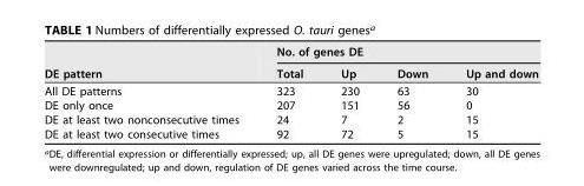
<table><thead><tr><td rowspan="2">DE pattern</td><td colspan="4">No. of genes DE</td></tr><tr><td>Total</td><td>Up</td><td>Down</td><td>Up and down</td></tr></thead><tbody><tr><td>All DE patterns</td><td>323</td><td>230</td><td>63</td><td>30</td></tr><tr><td>DE only once</td><td>207</td><td>151</td><td>56</td><td>0</td></tr><tr><td>DE at least two nonconsecutive times</td><td>24</td><td>7</td><td>2</td><td>15</td></tr><tr><td>DE at least two consecutive times</td><td>92</td><td>72</td><td>5</td><td>15</td></tr></tbody></table>